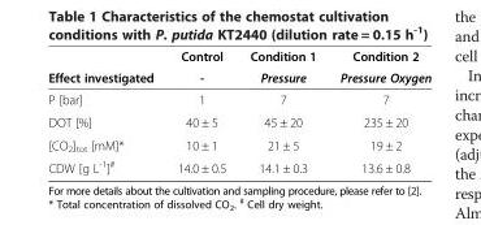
<table><thead><tr><td rowspan="2">Effect investigated</td><td rowspan="2">Control -</td><td rowspan="2">Condition 1 Pressure</td><td rowspan="2">Condition 2 Pressure Oxygen</td></tr><tr></tr></thead><tbody><tr><td>P [bar]</td><td>1</td><td>7</td><td>7</td></tr><tr><td>DOT [%]</td><td>40 ± 5</td><td>45 ± 20</td><td>235 ± 20</td></tr><tr><td>[CO<sub>2</sub>]<sub>tot</sub> [mM]*</td><td>10 ± 1</td><td>21 ± 5</td><td>19 ± 2</td></tr><tr><td>CDW [g L<sup>-1</sup>]<sup>#</sup></td><td>14.0 ± 0.5</td><td>14.1 ± 0.3</td><td>13.6 ± 0.8</td></tr></tbody></table>